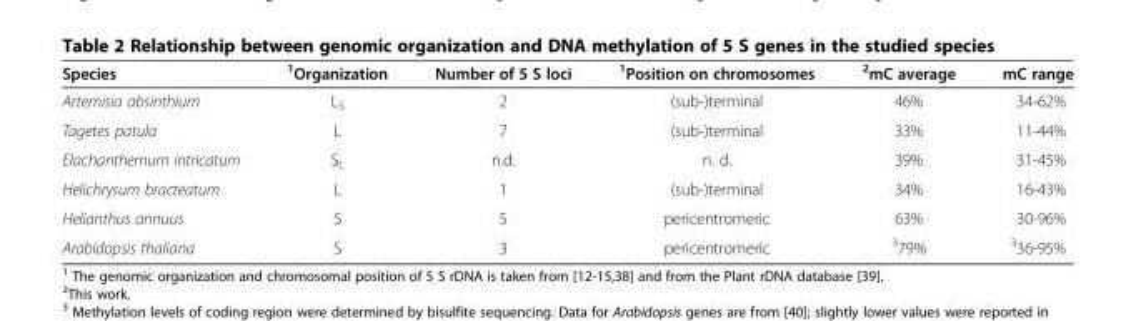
<table><thead><tr><td>Species</td><td><sup>1</sup>Organization</td><td>Number of 5 S loci</td><td><sup>1</sup>Position on chromosomes</td><td><sup>2</sup>mC average</td><td>mC range</td></tr></thead><tbody><tr><td>Artemisia absinthium</td><td>L<sub>S</sub></td><td>2</td><td>(sub-)terminal</td><td>46%</td><td>34-62%</td></tr><tr><td>Tagetes patula</td><td>L</td><td>7</td><td>(sub-)terminal</td><td>33%</td><td>11-44%</td></tr><tr><td>Elachanthemum intricatum</td><td>S<sub>L</sub></td><td>n.d.</td><td>n. d.</td><td>39%</td><td>31-45%</td></tr><tr><td>Helichrysum bracteatum</td><td>L</td><td>1</td><td>(sub-)terminal</td><td>34%</td><td>16-43%</td></tr><tr><td>Helianthus annuus</td><td>S</td><td>5</td><td>pericentromeric</td><td>63%</td><td>30-96%</td></tr><tr><td>Arabidopsis thaliana</td><td>S</td><td>3</td><td>pericentromeric</td><td><sup>3</sup>79%</td><td><sup>3</sup>36-95%</td></tr></tbody></table>